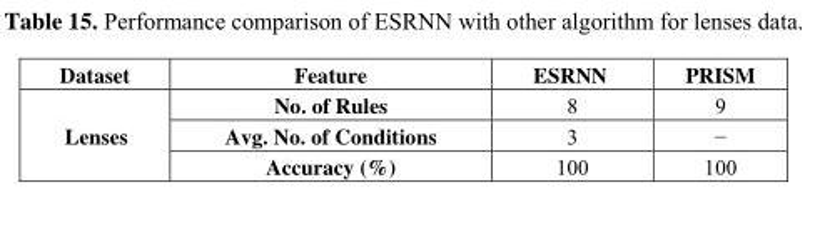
<table><thead><tr><td>Dataset</td><td>Feature</td><td>ESRNN</td><td>PRISM</td></tr></thead><tbody><tr><td rowspan="3">Lenses</td><td>No. of Rules</td><td>8</td><td>9</td></tr><tr><td>Avg. No. of Conditions</td><td>3</td><td>−</td></tr><tr><td>Accuracy (%)</td><td>100</td><td>100</td></tr></tbody></table>